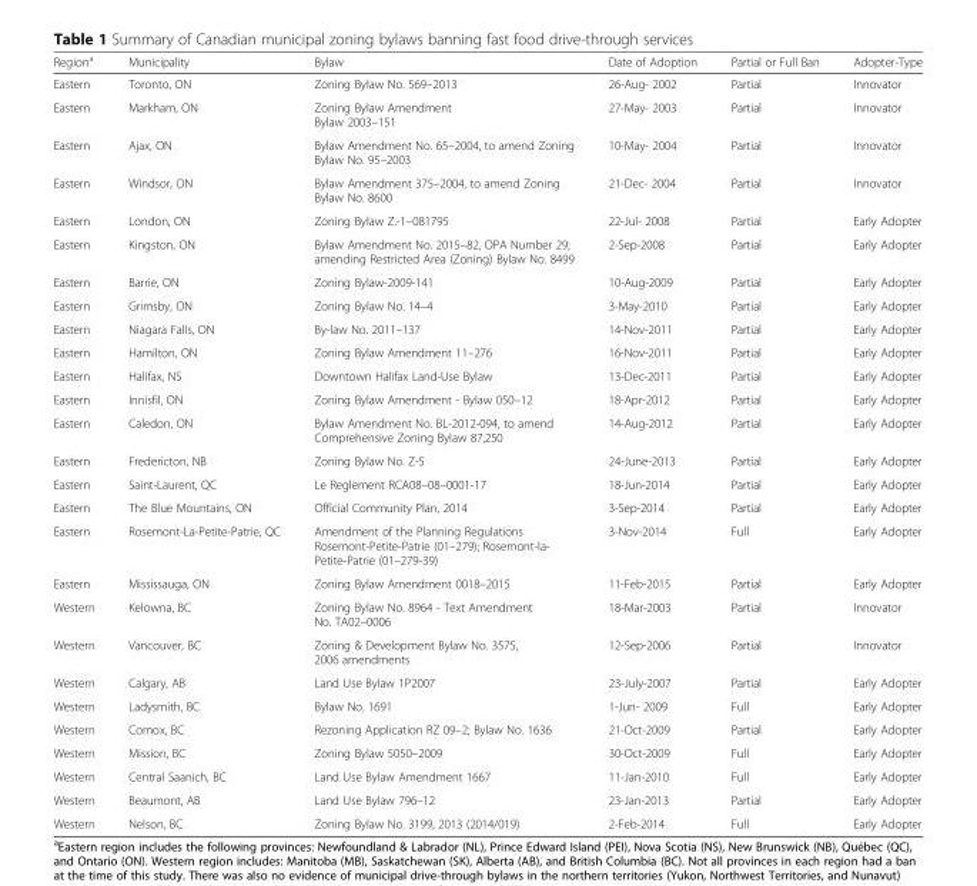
<table><thead><tr><td>Region<sup>a</sup></td><td>Municipality</td><td>Bylaw</td><td>Date of Adoption</td><td>Partial or Full Ban</td><td>Adopter-Type</td></tr></thead><tbody><tr><td>Eastern</td><td>Toronto, ON</td><td>Zoning Bylaw No. 569–2013</td><td>26-Aug- 2002</td><td>Partial</td><td>Innovator</td></tr><tr><td>Eastern</td><td>Markham, ON</td><td>Zoning Bylaw Amendment Bylaw 2003–151</td><td>27-May- 2003</td><td>Partial</td><td>Innovator</td></tr><tr><td>Eastern</td><td>Ajax, ON</td><td>Bylaw Amendment No. 65–2004, to amend Zoning Bylaw No. 95–2003</td><td>10-May- 2004</td><td>Partial</td><td>Innovator</td></tr><tr><td>Eastern</td><td>Windsor, ON</td><td>Bylaw Amendment 375–2004, to amend Zoning Bylaw No. 8600</td><td>21-Dec- 2004</td><td>Partial</td><td>Innovator</td></tr><tr><td>Eastern</td><td>London, ON</td><td>Zoning Bylaw Z.-1–081795</td><td>22-Jul- 2008</td><td>Partial</td><td>Early Adopter</td></tr><tr><td>Eastern</td><td>Kingston, ON</td><td>Bylaw Amendment No. 2015–82, OPA Number 29; amending Restricted Area (Zoning) Bylaw No. 8499</td><td>2-Sep-2008</td><td>Partial</td><td>Early Adopter</td></tr><tr><td>Eastern</td><td>Barrie, ON</td><td>Zoning Bylaw-2009-141</td><td>10-Aug-2009</td><td>Partial</td><td>Early Adopter</td></tr><tr><td>Eastern</td><td>Grimsby, ON</td><td>Zoning Bylaw No. 14–4</td><td>3-May-2010</td><td>Partial</td><td>Early Adopter</td></tr><tr><td>Eastern</td><td>Niagara Falls, ON</td><td>By-law No. 2011–137</td><td>14-Nov-2011</td><td>Partial</td><td>Early Adopter</td></tr><tr><td>Eastern</td><td>Hamilton, ON</td><td>Zoning Bylaw Amendment 11–276</td><td>16-Nov-2011</td><td>Partial</td><td>Early Adopter</td></tr><tr><td>Eastern</td><td>Halifax, NS</td><td>Downtown Halifax Land-Use Bylaw</td><td>13-Dec-2011</td><td>Partial</td><td>Early Adopter</td></tr><tr><td>Eastern</td><td>Innisfil, ON</td><td>Zoning Bylaw Amendment - Bylaw 050–12</td><td>18-Apr-2012</td><td>Partial</td><td>Early Adopter</td></tr><tr><td>Eastern</td><td>Caledon, ON</td><td>Bylaw Amendment No. BL-2012-094, to amend Comprehensive Zoning Bylaw 87,250</td><td>14-Aug-2012</td><td>Partial</td><td>Early Adopter</td></tr><tr><td>Eastern</td><td>Fredericton, NB</td><td>Zoning Bylaw No. Z-5</td><td>24-June-2013</td><td>Partial</td><td>Early Adopter</td></tr><tr><td>Eastern</td><td>Saint-Laurent, QC</td><td>Le Reglement RCA08–08–0001-17</td><td>18-Jun-2014</td><td>Partial</td><td>Early Adopter</td></tr><tr><td>Eastern</td><td>The Blue Mountains, ON</td><td>Official Community Plan, 2014</td><td>3-Sep-2014</td><td>Partial</td><td>Early Adopter</td></tr><tr><td>Eastern</td><td>Rosemont-La-Petite-Patrie, QC</td><td>Amendment of the Planning Regulations Rosemont-Petite-Patrie (01–279); Rosemont-la- Petite-Patrie (01–279-39)</td><td>3-Nov-2014</td><td>Full</td><td>Early Adopter</td></tr><tr><td>Eastern</td><td>Mississauga, ON</td><td>Zoning Bylaw Amendment 0018–2015</td><td>11-Feb-2015</td><td>Partial</td><td>Early Adopter</td></tr><tr><td>Western</td><td>Kelowna, BC</td><td>Zoning Bylaw No. 8964 - Text Amendment No. TA02–0006</td><td>18-Mar-2003</td><td>Partial</td><td>Innovator</td></tr><tr><td>Western</td><td>Vancouver, BC</td><td>Zoning &amp; Development Bylaw No. 3575, 2006 amendments</td><td>12-Sep-2006</td><td>Partial</td><td>Innovator</td></tr><tr><td>Western</td><td>Calgary, AB</td><td>Land Use Bylaw 1P2007</td><td>23-July-2007</td><td>Partial</td><td>Early Adopter</td></tr><tr><td>Western</td><td>Ladysmith, BC</td><td>Bylaw No. 1691</td><td>1-Jun- 2009</td><td>Full</td><td>Early Adopter</td></tr><tr><td>Western</td><td>Comox, BC</td><td>Rezoning Application RZ 09–2; Bylaw No. 1636</td><td>21-Oct-2009</td><td>Partial</td><td>Early Adopter</td></tr><tr><td>Western</td><td>Mission, BC</td><td>Zoning Bylaw 5050–2009</td><td>30-Oct-2009</td><td>Full</td><td>Early Adopter</td></tr><tr><td>Western</td><td>Central Saanich, BC</td><td>Land Use Bylaw Amendment 1667</td><td>11-Jan-2010</td><td>Full</td><td>Early Adopter</td></tr><tr><td>Western</td><td>Beaumont, AB</td><td>Land Use Bylaw 796–12</td><td>23-Jan-2013</td><td>Partial</td><td>Early Adopter</td></tr><tr><td>Western</td><td>Nelson, BC</td><td>Zoning Bylaw No. 3199, 2013 (2014/019)</td><td>2-Feb-2014</td><td>Full</td><td>Early Adopter</td></tr></tbody></table>